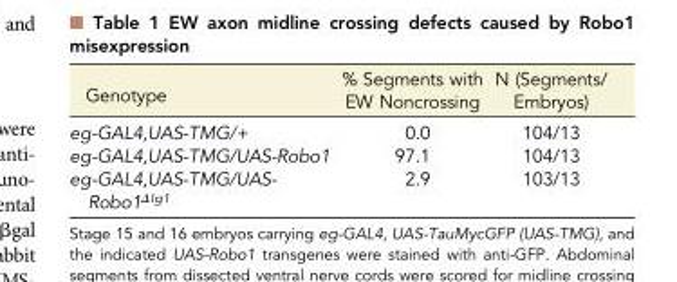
<table><thead><tr><td>Genotype</td><td>% Segments with EW Noncrossing</td><td>N (Segments/ Embryos)</td></tr></thead><tbody><tr><td>eg-GAL4,UAS-TMG/+</td><td>0.0</td><td>104/13</td></tr><tr><td>eg-GAL4,UAS-TMG/UAS-Robo1</td><td>97.1</td><td>104/13</td></tr><tr><td>eg-GAL4,UAS-TMG/UAS- Robo1<sup>ΔIg1</sup></td><td>2.9</td><td>103/13</td></tr></tbody></table>